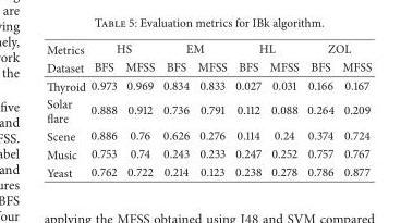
<table><thead><tr><td rowspan="2">Metrics Dataset</td><td colspan="2">HS</td><td colspan="2">EM</td><td colspan="2">HL</td><td colspan="2">ZOL</td></tr><tr><td>BFS</td><td>MFSS</td><td>BFS</td><td>MFSS</td><td>BFS</td><td>MFSS</td><td>BFS</td><td>MFSS</td></tr></thead><tbody><tr><td>Thyroid</td><td>0.973</td><td>0.969</td><td>0.834</td><td>0.833</td><td>0.027</td><td>0.031</td><td>0.166</td><td>0.167</td></tr><tr><td>Solar flare</td><td>0.888</td><td>0.912</td><td>0.736</td><td>0.791</td><td>0.112</td><td>0.088</td><td>0.264</td><td>0.209</td></tr><tr><td>Scene</td><td>0.886</td><td>0.76</td><td>0.626</td><td>0.276</td><td>0.114</td><td>0.24</td><td>0.374</td><td>0.724</td></tr><tr><td>Music</td><td>0.753</td><td>0.74</td><td>0.243</td><td>0.233</td><td>0.247</td><td>0.252</td><td>0.757</td><td>0.767</td></tr><tr><td>Yeast</td><td>0.762</td><td>0.722</td><td>0.214</td><td>0.123</td><td>0.238</td><td>0.278</td><td>0.786</td><td>0.877</td></tr></tbody></table>